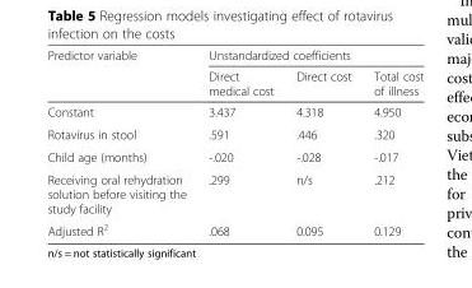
<table><thead><tr><td rowspan="2">Predictor variable</td><td colspan="3">Unstandardized coefficients</td></tr><tr><td>Direct medical cost</td><td>Direct cost</td><td>Total cost of illness</td></tr></thead><tbody><tr><td>Constant</td><td>3.437</td><td>4.318</td><td>4.950</td></tr><tr><td>Rotavirus in stool</td><td>.591</td><td>.446</td><td>.320</td></tr><tr><td>Child age (months)</td><td>-.020</td><td>-.028</td><td>-.017</td></tr><tr><td>Receiving oral rehydration solution before visiting the study facility</td><td>.299</td><td>n/s</td><td>.212</td></tr><tr><td>Adjusted R<sup>2</sup></td><td>.068</td><td>0.095</td><td>0.129</td></tr></tbody></table>